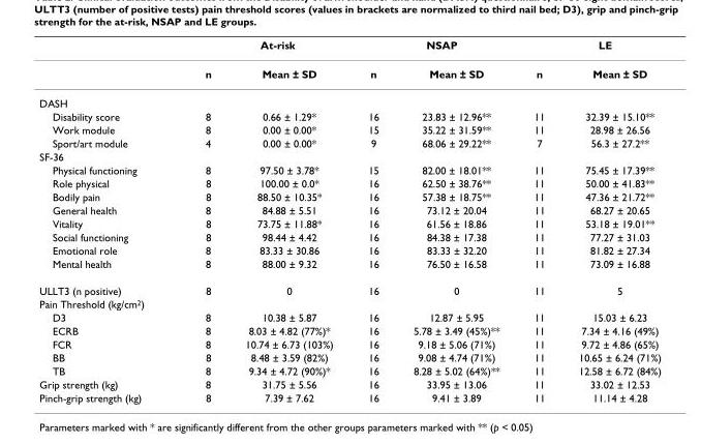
<table><thead><tr><td rowspan="2"></td><td colspan="2">At-risk</td><td colspan="2">NSAP</td><td colspan="2">LE</td></tr><tr><td>n</td><td>Mean ± SD</td><td>n</td><td>Mean ± SD</td><td>n</td><td>Mean ± SD</td></tr></thead><tbody><tr><td colspan="7">DASH</td></tr><tr><td>Disability score</td><td>8</td><td>0.66 ± 1.29*</td><td>16</td><td>23.83 ± 12.96**</td><td>11</td><td>32.39 ± 15.10**</td></tr><tr><td>Work module</td><td>8</td><td>0.00 ± 0.00*</td><td>15</td><td>35.22 ± 31.59**</td><td>11</td><td>28.98 ± 26.56</td></tr><tr><td>Sport/art module</td><td>4</td><td>0.00 ± 0.00*</td><td>9</td><td>68.06 ± 29.22**</td><td>7</td><td>56.3 ± 27.2**</td></tr><tr><td colspan="7">SF-36</td></tr><tr><td>Physical functioning</td><td>8</td><td>97.50 ± 3.78*</td><td>15</td><td>82.00 ± 18.01**</td><td>11</td><td>75.45 ± 17.39**</td></tr><tr><td>Role physical</td><td>8</td><td>100.00 ± 0.0*</td><td>16</td><td>62.50 ± 38.76**</td><td>11</td><td>50.00 ± 41.83**</td></tr><tr><td>Bodily pain</td><td>8</td><td>88.50 ± 10.35*</td><td>16</td><td>57.38 ± 18.75**</td><td>11</td><td>47.36 ± 21.72**</td></tr><tr><td>General health</td><td>8</td><td>84.88 ± 5.51</td><td>16</td><td>73.12 ± 20.04</td><td>11</td><td>68.27 ± 20.65</td></tr><tr><td>Vitality</td><td>8</td><td>73.75 ± 11.88*</td><td>16</td><td>61.56 ± 18.86</td><td>11</td><td>53.18 ± 19.01**</td></tr><tr><td>Social functioning</td><td>8</td><td>98.44 ± 4.42</td><td>16</td><td>84.38 ± 17.38</td><td>11</td><td>77.27 ± 31.03</td></tr><tr><td>Emotional role</td><td>8</td><td>83.33 ± 30.86</td><td>16</td><td>83.33 ± 32.20</td><td>11</td><td>81.82 ± 27.34</td></tr><tr><td>Mental health</td><td>8</td><td>88.00 ± 9.32</td><td>16</td><td>76.50 ± 16.58</td><td>11</td><td>73.09 ± 16.88</td></tr><tr><td>ULLT3 (n positive)</td><td>8</td><td>0</td><td>16</td><td>0</td><td>11</td><td>5</td></tr><tr><td colspan="7">Pain Threshold (kg/cm<sup>2</sup>)</td></tr><tr><td>D3</td><td>8</td><td>10.38 ± 5.87</td><td>16</td><td>12.87 ± 5.95</td><td>11</td><td>15.03 ± 6.23</td></tr><tr><td>ECRB</td><td>8</td><td>8.03 ± 4.82 (77%)*</td><td>16</td><td>5.78 ± 3.49 (45%)**</td><td>11</td><td>7.34 ± 4.16 (49%)</td></tr><tr><td>FCR</td><td>8</td><td>10.74 ± 6.73 (103%)</td><td>16</td><td>9.18 ± 5.06 (71%)</td><td>11</td><td>9.72 ± 4.86 (65%)</td></tr><tr><td>BB</td><td>8</td><td>8.48 ± 3.59 (82%)</td><td>16</td><td>9.08 ± 4.74 (71%)</td><td>11</td><td>10.65 ± 6.24 (71%)</td></tr><tr><td>TB</td><td>8</td><td>9.34 ± 4.72 (90%)*</td><td>16</td><td>8.28 ± 5.02 (64%)**</td><td>11</td><td>12.58 ± 6.72 (84%)</td></tr><tr><td>Grip strength (kg)</td><td>8</td><td>31.75 ± 5.56</td><td>16</td><td>33.95 ± 13.06</td><td>11</td><td>33.02 ± 12.53</td></tr><tr><td>Pinch-grip strength (kg)</td><td>8</td><td>7.39 ± 7.62</td><td>16</td><td>9.41 ± 3.89</td><td>11</td><td>11.14 ± 4.28</td></tr></tbody></table>